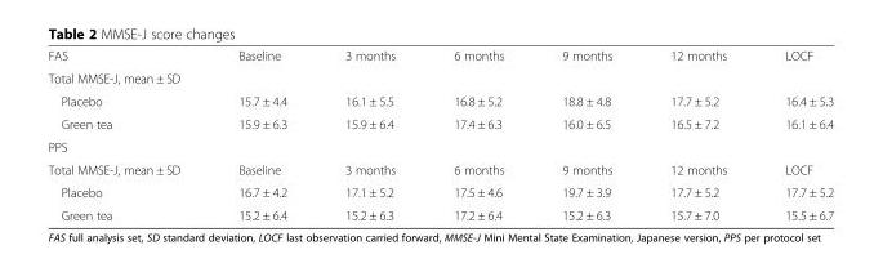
<table><tbody><tr><td>FAS</td><td>Baseline</td><td>3 months</td><td>6 months</td><td>9 months</td><td>12 months</td><td>LOCF</td></tr><tr><td colspan="7">Total MMSE-J, mean ± SD</td></tr><tr><td>Placebo</td><td>15.7 ± 4.4</td><td>16.1 ± 5.5</td><td>16.8 ± 5.2</td><td>18.8 ± 4.8</td><td>17.7 ± 5.2</td><td>16.4 ± 5.3</td></tr><tr><td>Green tea</td><td>15.9 ± 6.3</td><td>15.9 ± 6.4</td><td>17.4 ± 6.3</td><td>16.0 ± 6.5</td><td>16.5 ± 7.2</td><td>16.1 ± 6.4</td></tr><tr><td colspan="7">PPS</td></tr><tr><td>Total MMSE-J, mean ± SD</td><td>Baseline</td><td>3 months</td><td>6 months</td><td>9 months</td><td>12 months</td><td>LOCF</td></tr><tr><td>Placebo</td><td>16.7 ± 4.2</td><td>17.1 ± 5.2</td><td>17.5 ± 4.6</td><td>19.7 ± 3.9</td><td>17.7 ± 5.2</td><td>17.7 ± 5.2</td></tr><tr><td>Green tea</td><td>15.2 ± 6.4</td><td>15.2 ± 6.3</td><td>17.2 ± 6.4</td><td>15.2 ± 6.3</td><td>15.7 ± 7.0</td><td>15.5 ± 6.7</td></tr></tbody></table>